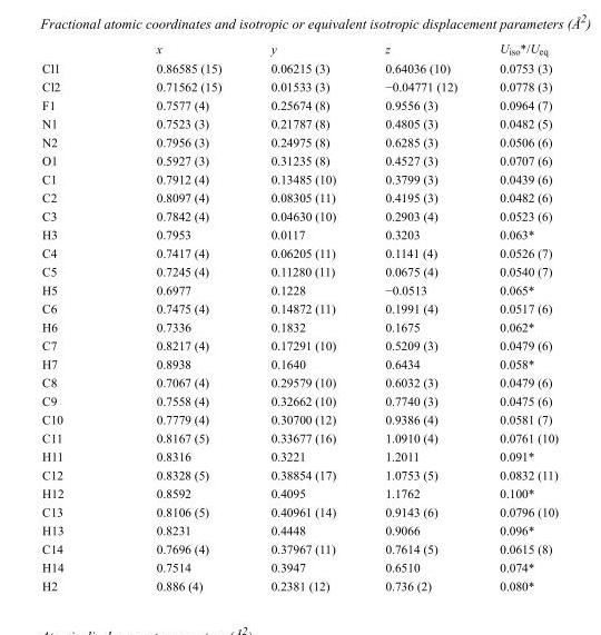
<table><thead><tr><td></td><td>x</td><td>y</td><td>z</td><td>U<sub>iso</sub>*/U<sub>eq</sub></td></tr></thead><tbody><tr><td>Cl1</td><td>0.86585 (15)</td><td>0.06215 (3)</td><td>0.64036 (10)</td><td>0.0753 (3)</td></tr><tr><td>Cl2</td><td>0.71562 (15)</td><td>0.01533 (3)</td><td>−0.04771 (12)</td><td>0.0778 (3)</td></tr><tr><td>F1</td><td>0.7577 (4)</td><td>0.25674 (8)</td><td>0.9556 (3)</td><td>0.0964 (7)</td></tr><tr><td>N1</td><td>0.7523 (3)</td><td>0.21787 (8)</td><td>0.4805 (3)</td><td>0.0482 (5)</td></tr><tr><td>N2</td><td>0.7956 (3)</td><td>0.24975 (8)</td><td>0.6285 (3)</td><td>0.0506 (6)</td></tr><tr><td>O1</td><td>0.5927 (3)</td><td>0.31235 (8)</td><td>0.4527 (3)</td><td>0.0707 (6)</td></tr><tr><td>C1</td><td>0.7912 (4)</td><td>0.13485 (10)</td><td>0.3799 (3)</td><td>0.0439 (6)</td></tr><tr><td>C2</td><td>0.8097 (4)</td><td>0.08305 (11)</td><td>0.4195 (3)</td><td>0.0482 (6)</td></tr><tr><td>C3</td><td>0.7842 (4)</td><td>0.04630 (10)</td><td>0.2903 (4)</td><td>0.0523 (6)</td></tr><tr><td>H3</td><td>0.7953</td><td>0.0117</td><td>0.3203</td><td>0.063*</td></tr><tr><td>C4</td><td>0.7417 (4)</td><td>0.06205 (11)</td><td>0.1141 (4)</td><td>0.0526 (7)</td></tr><tr><td>C5</td><td>0.7245 (4)</td><td>0.11280 (11)</td><td>0.0675 (4)</td><td>0.0540 (7)</td></tr><tr><td>H5</td><td>0.6977</td><td>0.1228</td><td>−0.0513</td><td>0.065*</td></tr><tr><td>C6</td><td>0.7475 (4)</td><td>0.14872 (11)</td><td>0.1991 (4)</td><td>0.0517 (6)</td></tr><tr><td>H6</td><td>0.7336</td><td>0.1832</td><td>0.1675</td><td>0.062*</td></tr><tr><td>C7</td><td>0.8217 (4)</td><td>0.17291 (10)</td><td>0.5209 (3)</td><td>0.0479 (6)</td></tr><tr><td>H7</td><td>0.8938</td><td>0.1640</td><td>0.6434</td><td>0.058*</td></tr><tr><td>C8</td><td>0.7067 (4)</td><td>0.29579 (10)</td><td>0.6032 (3)</td><td>0.0479 (6)</td></tr><tr><td>C9</td><td>0.7558 (4)</td><td>0.32662 (10)</td><td>0.7740 (3)</td><td>0.0475 (6)</td></tr><tr><td>C10</td><td>0.7779 (4)</td><td>0.30700 (12)</td><td>0.9386 (4)</td><td>0.0581 (7)</td></tr><tr><td>C11</td><td>0.8167 (5)</td><td>0.33677 (16)</td><td>1.0910 (4)</td><td>0.0761 (10)</td></tr><tr><td>H11</td><td>0.8316</td><td>0.3221</td><td>1.2011</td><td>0.091*</td></tr><tr><td>C12</td><td>0.8328 (5)</td><td>0.38854 (17)</td><td>1.0753 (5)</td><td>0.0832 (11)</td></tr><tr><td>H12</td><td>0.8592</td><td>0.4095</td><td>1.1762</td><td>0.100*</td></tr><tr><td>C13</td><td>0.8106 (5)</td><td>0.40961 (14)</td><td>0.9143 (6)</td><td>0.0796 (10)</td></tr><tr><td>H13</td><td>0.8231</td><td>0.4448</td><td>0.9066</td><td>0.096*</td></tr><tr><td>C14</td><td>0.7696 (4)</td><td>0.37967 (11)</td><td>0.7614 (5)</td><td>0.0615 (8)</td></tr><tr><td>H14</td><td>0.7514</td><td>0.3947</td><td>0.6510</td><td>0.074*</td></tr><tr><td>H2</td><td>0.886 (4)</td><td>0.2381 (12)</td><td>0.736 (2)</td><td>0.080*</td></tr></tbody></table>